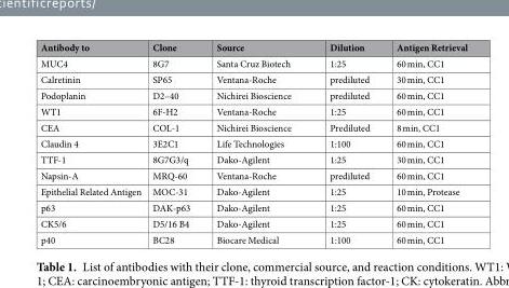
<table><thead><tr><td>Antibody to</td><td>Clone</td><td>Source</td><td>Dilution</td><td>Antigen Retrieval</td></tr></thead><tbody><tr><td>MUC4</td><td>8G7</td><td>Santa Cruz Biotech</td><td>1:25</td><td>60 min, CC1</td></tr><tr><td>Calretinin</td><td>SP65</td><td>Ventana-Roche</td><td>prediluted</td><td>30 min, CC1</td></tr><tr><td>Podoplanin</td><td>D2–40</td><td>Nichirei Bioscience</td><td>prediluted</td><td>60 min, CC1</td></tr><tr><td>WT1</td><td>6F-H2</td><td>Ventana-Roche</td><td>1:25</td><td>60 min, CC1</td></tr><tr><td>CEA</td><td>COL-1</td><td>Nichirei Bioscience</td><td>Prediluted</td><td>8 min, CC1</td></tr><tr><td>Claudin 4</td><td>3E2C1</td><td>Life Technologies</td><td>1:100</td><td>60 min, CC1</td></tr><tr><td>TTF-1</td><td>8G7G3/q</td><td>Dako-Agilent</td><td>1:25</td><td>30 min, CC1</td></tr><tr><td>Napsin-A</td><td>MRQ-60</td><td>Ventana-Roche</td><td>prediluted</td><td>60 min, CC1</td></tr><tr><td>Epithelial Related Antigen</td><td>MOC-31</td><td>Dako-Agilent</td><td>1:25</td><td>10 min, Protease</td></tr><tr><td>p63</td><td>DAK-p63</td><td>Dako-Agilent</td><td>1:25</td><td>60 min, CC1</td></tr><tr><td>CK5/6</td><td>D5/16 B4</td><td>Dako-Agilent</td><td>1:25</td><td>60 min, CC1</td></tr><tr><td>p40</td><td>BC28</td><td>Biocare Medical</td><td>1:100</td><td>60 min, CC1</td></tr></tbody></table>